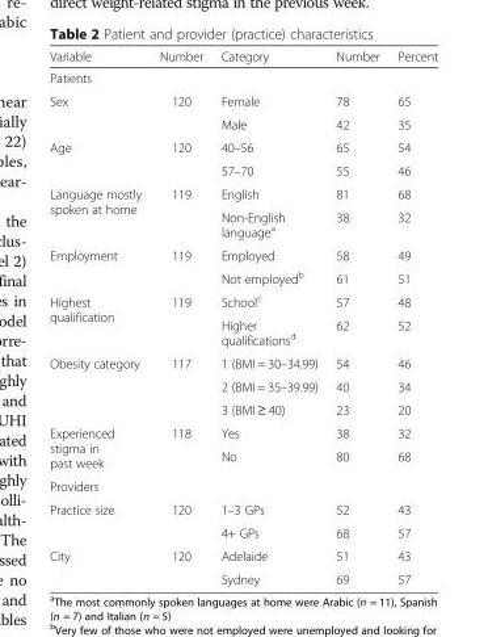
<table><thead><tr><td>Variable</td><td>Number</td><td>Category</td><td>Number</td><td>Percent</td></tr></thead><tbody><tr><td colspan="5">Patients</td></tr><tr><td rowspan="2">Sex</td><td>120</td><td>Female</td><td>78</td><td>65</td></tr><tr><td></td><td>Male</td><td>42</td><td>35</td></tr><tr><td rowspan="2">Age</td><td>120</td><td>40–56</td><td>65</td><td>54</td></tr><tr><td></td><td>57–70</td><td>55</td><td>46</td></tr><tr><td rowspan="2">Language mostly spoken at home</td><td>119</td><td>English</td><td>81</td><td>68</td></tr><tr><td></td><td>Non-English language<sup>a</sup></td><td>38</td><td>32</td></tr><tr><td rowspan="2">Employment</td><td>119</td><td>Employed</td><td>58</td><td>49</td></tr><tr><td></td><td>Not employed<sup>b</sup></td><td>61</td><td>51</td></tr><tr><td rowspan="2">Highest qualification</td><td>119</td><td>School<sup>c</sup></td><td>57</td><td>48</td></tr><tr><td></td><td>Higher qualifications<sup>d</sup></td><td>62</td><td>52</td></tr><tr><td rowspan="3">Obesity category</td><td>117</td><td>1 (BMI = 30–34.99)</td><td>54</td><td>46</td></tr><tr><td></td><td>2 (BMI = 35–39.99)</td><td>40</td><td>34</td></tr><tr><td></td><td>3 (BMI ≥ 40)</td><td>23</td><td>20</td></tr><tr><td rowspan="2">Experienced stigma in past week</td><td>118</td><td>Yes</td><td>38</td><td>32</td></tr><tr><td></td><td>No</td><td>80</td><td>68</td></tr><tr><td colspan="5">Providers</td></tr><tr><td rowspan="2">Practice size</td><td>120</td><td>1–3 GPs</td><td>52</td><td>43</td></tr><tr><td></td><td>4+ GPs</td><td>68</td><td>57</td></tr><tr><td rowspan="2">City</td><td>120</td><td>Adelaide</td><td>51</td><td>43</td></tr><tr><td></td><td>Sydney</td><td>69</td><td>57</td></tr></tbody></table>